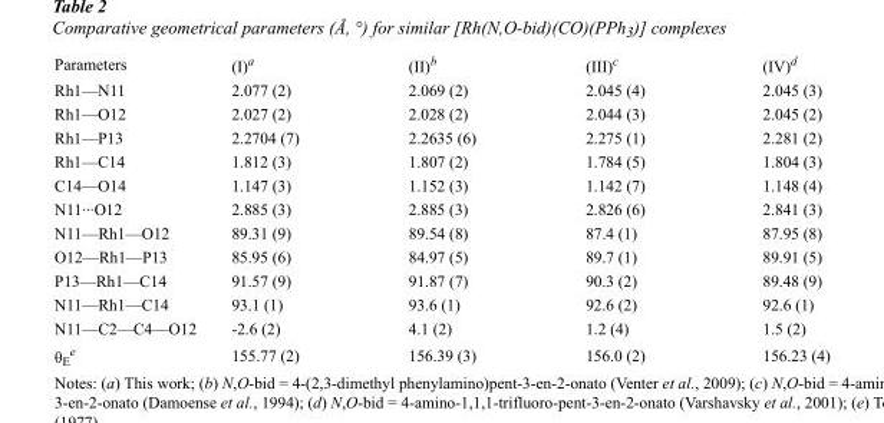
<table><tbody><tr><td>Parameters</td><td>(I)<sup>a</sup></td><td>(II)<sup>b</sup></td><td>(III)<sup>c</sup></td><td>(IV)<sup>d</sup></td></tr><tr><td>Rh1—N11</td><td>2.077 (2)</td><td>2.069 (2)</td><td>2.045 (4)</td><td>2.045 (3)</td></tr><tr><td>Rh1—O12</td><td>2.027 (2)</td><td>2.028 (2)</td><td>2.044 (3)</td><td>2.045 (2)</td></tr><tr><td>Rh1—P13</td><td>2.2704 (7)</td><td>2.2635 (6)</td><td>2.275 (1)</td><td>2.281 (2)</td></tr><tr><td>Rh1—C14</td><td>1.812 (3)</td><td>1.807 (2)</td><td>1.784 (5)</td><td>1.804 (3)</td></tr><tr><td>C14—O14</td><td>1.147 (3)</td><td>1.152 (3)</td><td>1.142 (7)</td><td>1.148 (4)</td></tr><tr><td>N11···O12</td><td>2.885 (3)</td><td>2.885 (3)</td><td>2.826 (6)</td><td>2.841 (3)</td></tr><tr><td>N11—Rh1—O12</td><td>89.31 (9)</td><td>89.54 (8)</td><td>87.4 (1)</td><td>87.95 (8)</td></tr><tr><td>O12—Rh1—P13</td><td>85.95 (6)</td><td>84.97 (5)</td><td>89.7 (1)</td><td>89.91 (5)</td></tr><tr><td>P13—Rh1—C14</td><td>91.57 (9)</td><td>91.87 (7)</td><td>90.3 (2)</td><td>89.48 (9)</td></tr><tr><td>N11—Rh1—C14</td><td>93.1 (1)</td><td>93.6 (1)</td><td>92.6 (2)</td><td>92.6 (1)</td></tr><tr><td>N11—C2—C4—O12</td><td>-2.6 (2)</td><td>4.1 (2)</td><td>1.2 (4)</td><td>1.5 (2)</td></tr><tr><td>θ<sub>E</sub><sup>e</sup></td><td>155.77 (2)</td><td>156.39 (3)</td><td>156.0 (2)</td><td>156.23 (4)</td></tr></tbody></table>